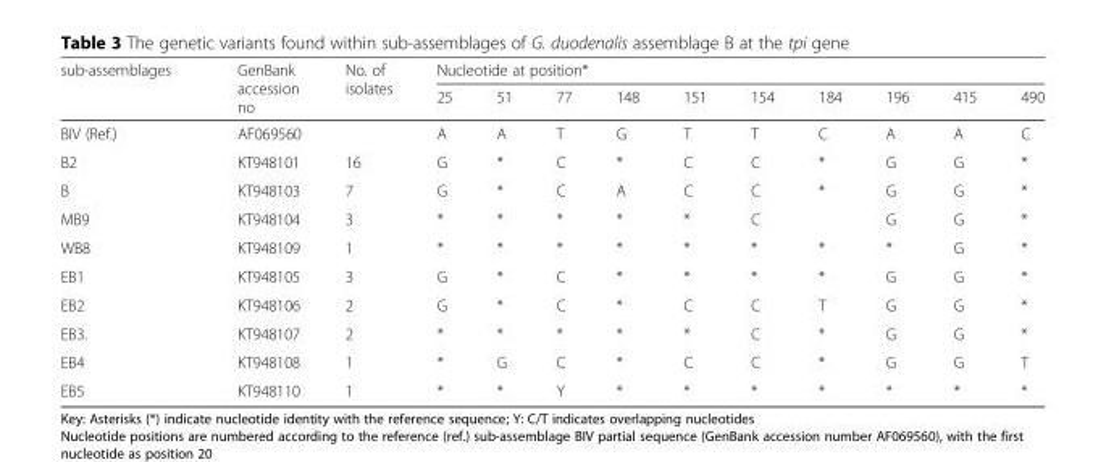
<table><thead><tr><td rowspan="2">sub-assemblages</td><td rowspan="2">GenBank accession no</td><td rowspan="2">No. of isolates</td><td colspan="10">Nucleotide at position*</td></tr><tr><td>25</td><td>51</td><td>77</td><td>148</td><td>151</td><td>154</td><td>184</td><td>196</td><td>415</td><td>490</td></tr></thead><tbody><tr><td>BIV (Ref.)</td><td>AF069560</td><td></td><td>A</td><td>A</td><td>T</td><td>G</td><td>T</td><td>T</td><td>C</td><td>A</td><td>A</td><td>C</td></tr><tr><td>B2</td><td>KT948101</td><td>16</td><td>G</td><td>*</td><td>C</td><td>*</td><td>C</td><td>C</td><td>*</td><td>G</td><td>G</td><td>*</td></tr><tr><td>B</td><td>KT948103</td><td>7</td><td>G</td><td>*</td><td>C</td><td>A</td><td>C</td><td>C</td><td>*</td><td>G</td><td>G</td><td>*</td></tr><tr><td>MB9</td><td>KT948104</td><td>3</td><td>*</td><td>*</td><td>*</td><td>*</td><td>*</td><td>C</td><td></td><td>G</td><td>G</td><td>*</td></tr><tr><td>WB8</td><td>KT948109</td><td>1</td><td>*</td><td>*</td><td>*</td><td>*</td><td>*</td><td>*</td><td>*</td><td>*</td><td>G</td><td>*</td></tr><tr><td>EB1</td><td>KT948105</td><td>3</td><td>G</td><td>*</td><td>C</td><td>*</td><td>*</td><td>*</td><td>*</td><td>G</td><td>G</td><td>*</td></tr><tr><td>EB2</td><td>KT948106</td><td>2</td><td>G</td><td>*</td><td>C</td><td>*</td><td>C</td><td>C</td><td>T</td><td>G</td><td>G</td><td>*</td></tr><tr><td>EB3.</td><td>KT948107</td><td>2</td><td>*</td><td>*</td><td>*</td><td>*</td><td>*</td><td>C</td><td>*</td><td>G</td><td>G</td><td>*</td></tr><tr><td>EB4</td><td>KT948108</td><td>1</td><td>*</td><td>G</td><td>C</td><td>*</td><td>C</td><td>C</td><td>*</td><td>G</td><td>G</td><td>T</td></tr><tr><td>EB5</td><td>KT948110</td><td>1</td><td>*</td><td>*</td><td>Y</td><td>*</td><td>*</td><td>*</td><td>*</td><td>*</td><td>*</td><td>*</td></tr></tbody></table>